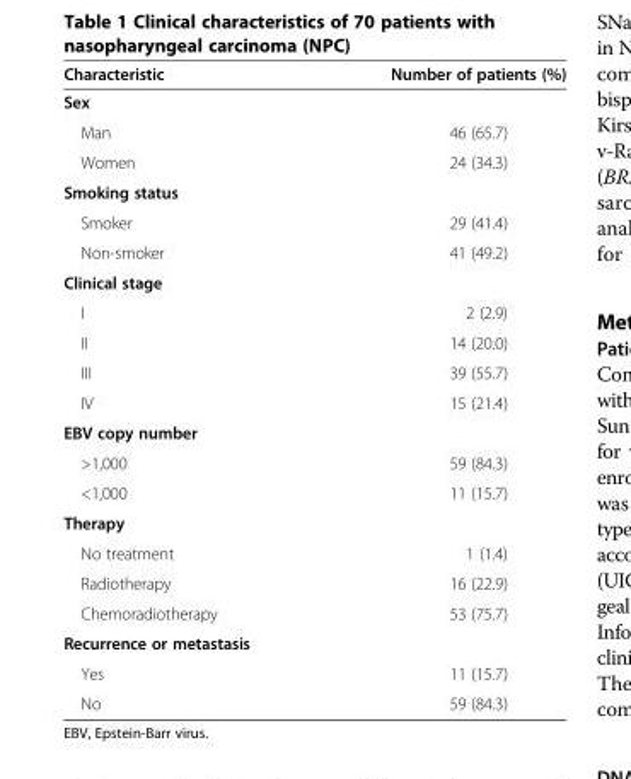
<table><thead><tr><td>Characteristic</td><td>Number of patients (%)</td></tr></thead><tbody><tr><td colspan="2">Sex</td></tr><tr><td>Man</td><td>46 (65.7)</td></tr><tr><td>Women</td><td>24 (34.3)</td></tr><tr><td colspan="2">Smoking status</td></tr><tr><td>Smoker</td><td>29 (41.4)</td></tr><tr><td>Non-smoker</td><td>41 (49.2)</td></tr><tr><td colspan="2">Clinical stage</td></tr><tr><td>I</td><td>2 (2.9)</td></tr><tr><td>II</td><td>14 (20.0)</td></tr><tr><td>III</td><td>39 (55.7)</td></tr><tr><td>IV</td><td>15 (21.4)</td></tr><tr><td colspan="2">EBV copy number</td></tr><tr><td>&gt;1,000</td><td>59 (84.3)</td></tr><tr><td>&lt;1,000</td><td>11 (15.7)</td></tr><tr><td colspan="2">Therapy</td></tr><tr><td>No treatment</td><td>1 (1.4)</td></tr><tr><td>Radiotherapy</td><td>16 (22.9)</td></tr><tr><td>Chemoradiotherapy</td><td>53 (75.7)</td></tr><tr><td colspan="2">Recurrence or metastasis</td></tr><tr><td>Yes</td><td>11 (15.7)</td></tr><tr><td>No</td><td>59 (84.3)</td></tr></tbody></table>